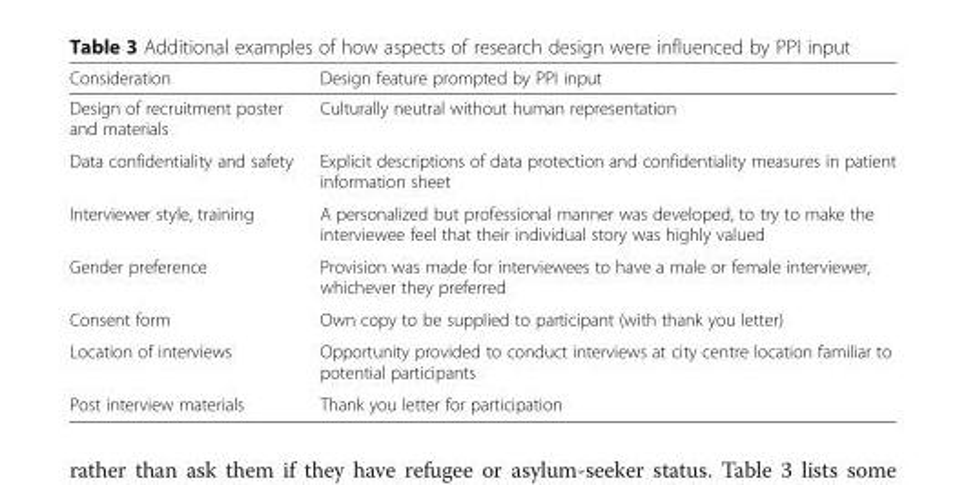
<table><thead><tr><td>Consideration</td><td>Design feature prompted by PPI input</td></tr></thead><tbody><tr><td>Design of recruitment poster and materials</td><td>Culturally neutral without human representation</td></tr><tr><td>Data confidentiality and safety</td><td>Explicit descriptions of data protection and confidentiality measures in patient information sheet</td></tr><tr><td>Interviewer style, training</td><td>A personalized but professional manner was developed, to try to make the interviewee feel that their individual story was highly valued</td></tr><tr><td>Gender preference</td><td>Provision was made for interviewees to have a male or female interviewer, whichever they preferred</td></tr><tr><td>Consent form</td><td>Own copy to be supplied to participant (with thank you letter)</td></tr><tr><td>Location of interviews</td><td>Opportunity provided to conduct interviews at city centre location familiar to potential participants</td></tr><tr><td>Post interview materials</td><td>Thank you letter for participation</td></tr></tbody></table>